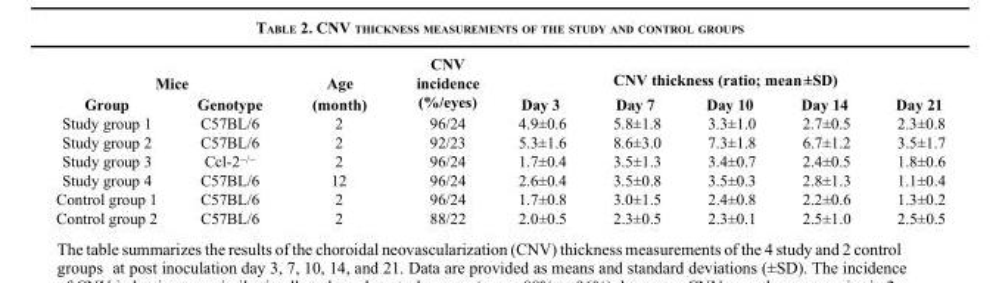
<table><thead><tr><td colspan="3">Mice Age</td><td rowspan="2">CNV incidence (%/eyes)</td><td colspan="5">CNV thickness (ratio; mean±SD)</td></tr><tr><td>Group</td><td>Genotype</td><td>(month)</td><td>Day 3</td><td>Day 7</td><td>Day 10</td><td>Day 14</td><td>Day 21</td></tr></thead><tbody><tr><td>Study group 1</td><td>C57BL/6</td><td>2</td><td>96/24</td><td>4.9±0.6</td><td>5.8±1.8</td><td>3.3±1.0</td><td>2.7±0.5</td><td>2.3±0.8</td></tr><tr><td>Study group 2</td><td>C57BL/6</td><td>2</td><td>92/23</td><td>5.3±1.6</td><td>8.6±3.0</td><td>7.3±1.8</td><td>6.7±1.2</td><td>3.5±1.7</td></tr><tr><td>Study group 3</td><td>Ccl-2<sup>−/−</sup></td><td>2</td><td>96/24</td><td>1.7±0.4</td><td>3.5±1.3</td><td>3.4±0.7</td><td>2.4±0.5</td><td>1.8±0.6</td></tr><tr><td>Study group 4</td><td>C57BL/6</td><td>12</td><td>96/24</td><td>2.6±0.4</td><td>3.5±0.8</td><td>3.5±0.3</td><td>2.8±1.3</td><td>1.1±0.4</td></tr><tr><td>Control group 1</td><td>C57BL/6</td><td>2</td><td>96/24</td><td>1.7±0.8</td><td>3.0±1.5</td><td>2.4±0.8</td><td>2.2±0.6</td><td>1.3±0.2</td></tr><tr><td>Control group 2</td><td>C57BL/6</td><td>2</td><td>88/22</td><td>2.0±0.5</td><td>2.3±0.5</td><td>2.3±0.1</td><td>2.5±1.0</td><td>2.5±0.5</td></tr></tbody></table>